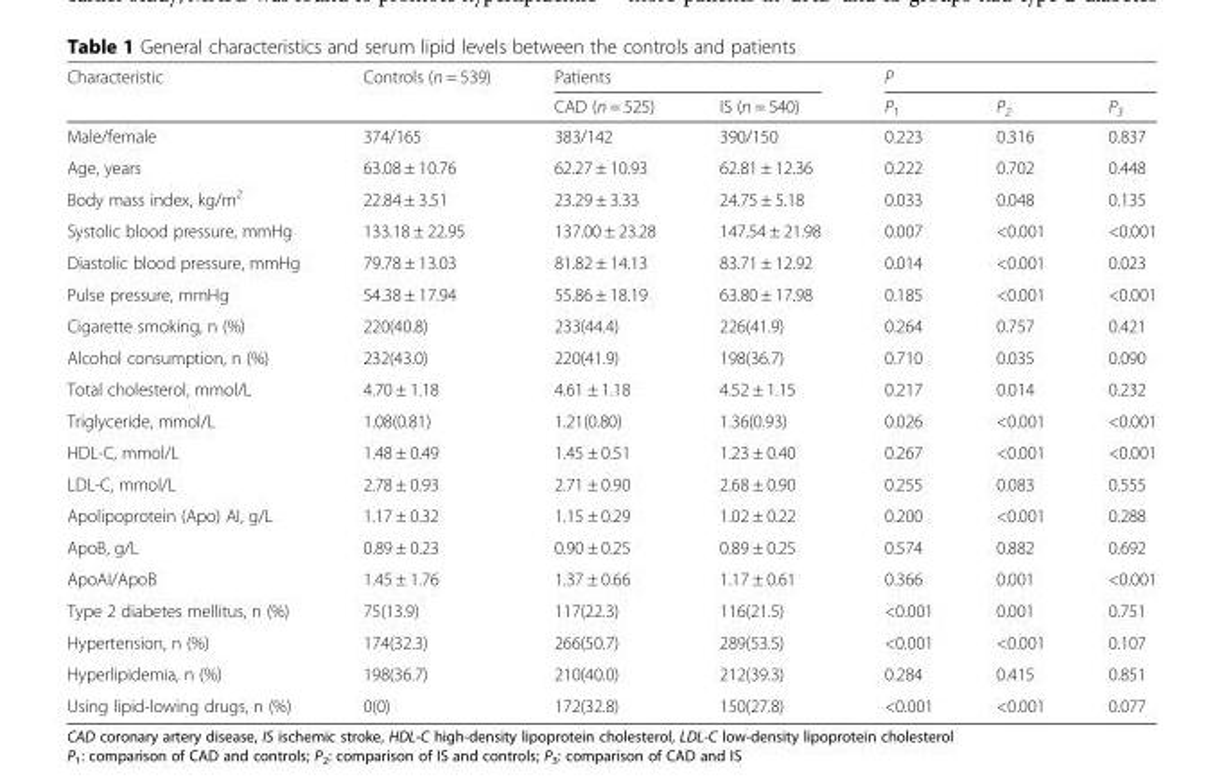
<table><thead><tr><td rowspan="2">Characteristic</td><td rowspan="2">Controls (n = 539)</td><td colspan="2">Patients</td><td colspan="3">P</td></tr><tr><td>CAD (n = 525)</td><td>IS (n = 540)</td><td>P<sub>1</sub></td><td>P<sub>2</sub></td><td>P<sub>3</sub></td></tr></thead><tbody><tr><td>Male/female</td><td>374/165</td><td>383/142</td><td>390/150</td><td>0.223</td><td>0.316</td><td>0.837</td></tr><tr><td>Age, years</td><td>63.08 ± 10.76</td><td>62.27 ± 10.93</td><td>62.81 ± 12.36</td><td>0.222</td><td>0.702</td><td>0.448</td></tr><tr><td>Body mass index, kg/m<sup>2</sup></td><td>22.84 ± 3.51</td><td>23.29 ± 3.33</td><td>24.75 ± 5.18</td><td>0.033</td><td>0.048</td><td>0.135</td></tr><tr><td>Systolic blood pressure, mmHg</td><td>133.18 ± 22.95</td><td>137.00 ± 23.28</td><td>147.54 ± 21.98</td><td>0.007</td><td>&lt;0.001</td><td>&lt;0.001</td></tr><tr><td>Diastolic blood pressure, mmHg</td><td>79.78 ± 13.03</td><td>81.82 ± 14.13</td><td>83.71 ± 12.92</td><td>0.014</td><td>&lt;0.001</td><td>0.023</td></tr><tr><td>Pulse pressure, mmHg</td><td>54.38 ± 17.94</td><td>55.86 ± 18.19</td><td>63.80 ± 17.98</td><td>0.185</td><td>&lt;0.001</td><td>&lt;0.001</td></tr><tr><td>Cigarette smoking, n (%)</td><td>220(40.8)</td><td>233(44.4)</td><td>226(41.9)</td><td>0.264</td><td>0.757</td><td>0.421</td></tr><tr><td>Alcohol consumption, n (%)</td><td>232(43.0)</td><td>220(41.9)</td><td>198(36.7)</td><td>0.710</td><td>0.035</td><td>0.090</td></tr><tr><td>Total cholesterol, mmol/L</td><td>4.70 ± 1.18</td><td>4.61 ± 1.18</td><td>4.52 ± 1.15</td><td>0.217</td><td>0.014</td><td>0.232</td></tr><tr><td>Triglyceride, mmol/L</td><td>1.08(0.81)</td><td>1.21(0.80)</td><td>1.36(0.93)</td><td>0.026</td><td>&lt;0.001</td><td>&lt;0.001</td></tr><tr><td>HDL-C, mmol/L</td><td>1.48 ± 0.49</td><td>1.45 ± 0.51</td><td>1.23 ± 0.40</td><td>0.267</td><td>&lt;0.001</td><td>&lt;0.001</td></tr><tr><td>LDL-C, mmol/L</td><td>2.78 ± 0.93</td><td>2.71 ± 0.90</td><td>2.68 ± 0.90</td><td>0.255</td><td>0.083</td><td>0.555</td></tr><tr><td>Apolipoprotein (Apo) AI, g/L</td><td>1.17 ± 0.32</td><td>1.15 ± 0.29</td><td>1.02 ± 0.22</td><td>0.200</td><td>&lt;0.001</td><td>0.288</td></tr><tr><td>ApoB, g/L</td><td>0.89 ± 0.23</td><td>0.90 ± 0.25</td><td>0.89 ± 0.25</td><td>0.574</td><td>0.882</td><td>0.692</td></tr><tr><td>ApoAI/ApoB</td><td>1.45 ± 1.76</td><td>1.37 ± 0.66</td><td>1.17 ± 0.61</td><td>0.366</td><td>0.001</td><td>&lt;0.001</td></tr><tr><td>Type 2 diabetes mellitus, n (%)</td><td>75(13.9)</td><td>117(22.3)</td><td>116(21.5)</td><td>&lt;0.001</td><td>0.001</td><td>0.751</td></tr><tr><td>Hypertension, n (%)</td><td>174(32.3)</td><td>266(50.7)</td><td>289(53.5)</td><td>&lt;0.001</td><td>&lt;0.001</td><td>0.107</td></tr><tr><td>Hyperlipidemia, n (%)</td><td>198(36.7)</td><td>210(40.0)</td><td>212(39.3)</td><td>0.284</td><td>0.415</td><td>0.851</td></tr><tr><td>Using lipid-lowing drugs, n (%)</td><td>0(0)</td><td>172(32.8)</td><td>150(27.8)</td><td>&lt;0.001</td><td>&lt;0.001</td><td>0.077</td></tr></tbody></table>